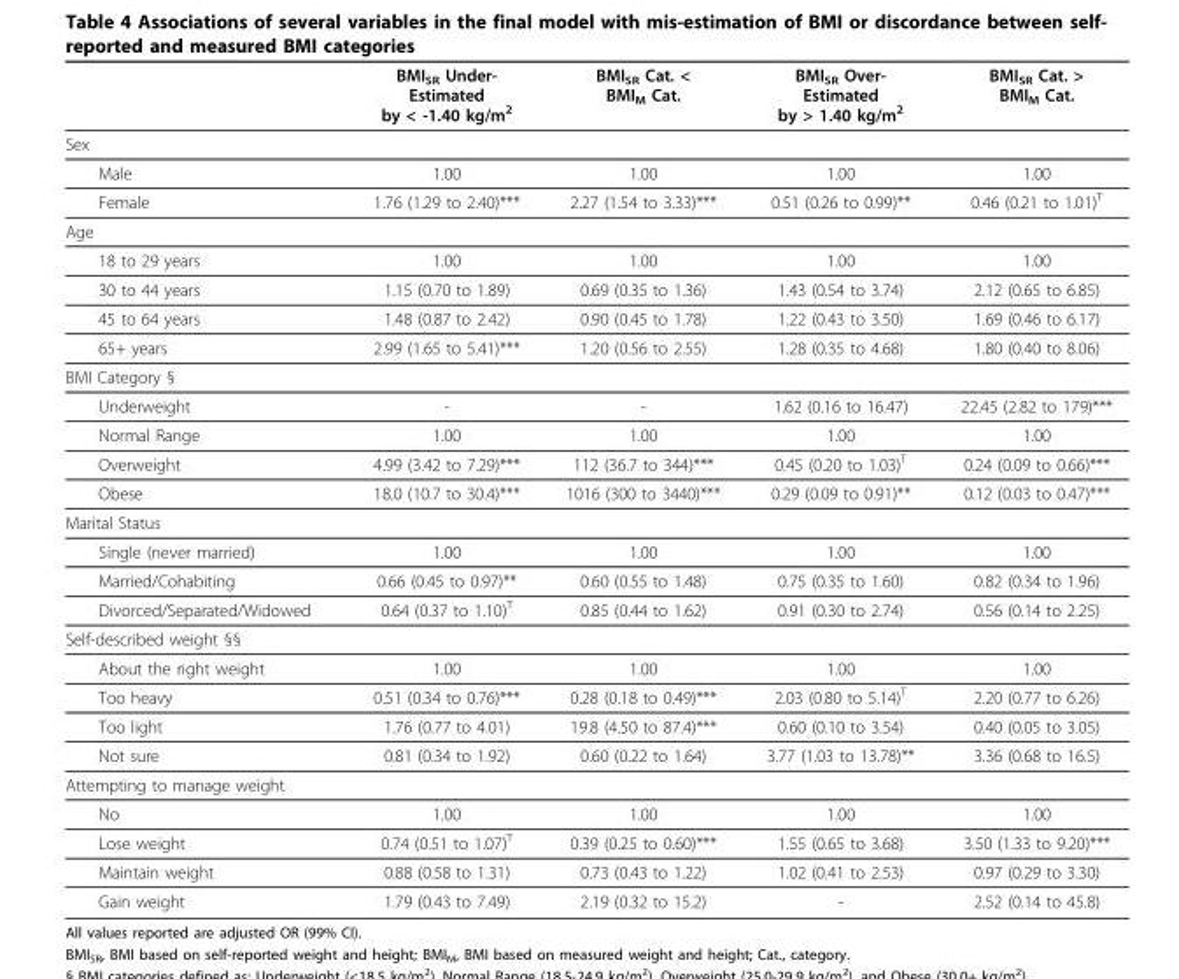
<table><thead><tr><td></td><td>BMISR Under- Estimated by &lt; -1.40 kg/m2</td><td>BMISR Cat. &lt; BMIM Cat.</td><td>BMISR Over- Estimated by &gt; 1.40 kg/m2</td><td>BMISR Cat. &gt; BMIM Cat.</td></tr></thead><tbody><tr><td colspan="5">Sex</td></tr><tr><td>Male</td><td>1.00</td><td>1.00</td><td>1.00</td><td>1.00</td></tr><tr><td>Female</td><td>1.76 (1.29 to 2.40)***</td><td>2.27 (1.54 to 3.33)***</td><td>0.51 (0.26 to 0.99)**</td><td>0.46 (0.21 to 1.01)T</td></tr><tr><td colspan="5">Age</td></tr><tr><td>18 to 29 years</td><td>1.00</td><td>1.00</td><td>1.00</td><td>1.00</td></tr><tr><td>30 to 44 years</td><td>1.15 (0.70 to 1.89)</td><td>0.69 (0.35 to 1.36)</td><td>1.43 (0.54 to 3.74)</td><td>2.12 (0.65 to 6.85)</td></tr><tr><td>45 to 64 years</td><td>1.48 (0.87 to 2.42)</td><td>0.90 (0.45 to 1.78)</td><td>1.22 (0.43 to 3.50)</td><td>1.69 (0.46 to 6.17)</td></tr><tr><td>65+ years</td><td>2.99 (1.65 to 5.41)***</td><td>1.20 (0.56 to 2.55)</td><td>1.28 (0.35 to 4.68)</td><td>1.80 (0.40 to 8.06)</td></tr><tr><td colspan="5">BMI Category §</td></tr><tr><td>Underweight</td><td>-</td><td>-</td><td>1.62 (0.16 to 16.47)</td><td>22.45 (2.82 to 179)***</td></tr><tr><td>Normal Range</td><td>1.00</td><td>1.00</td><td>1.00</td><td>1.00</td></tr><tr><td>Overweight</td><td>4.99 (3.42 to 7.29)***</td><td>112 (36.7 to 344)***</td><td>0.45 (0.20 to 1.03)T</td><td>0.24 (0.09 to 0.66)***</td></tr><tr><td>Obese</td><td>18.0 (10.7 to 30.4)***</td><td>1016 (300 to 3440)***</td><td>0.29 (0.09 to 0.91)**</td><td>0.12 (0.03 to 0.47)***</td></tr><tr><td colspan="5">Marital Status</td></tr><tr><td>Single (never married)</td><td>1.00</td><td>1.00</td><td>1.00</td><td>1.00</td></tr><tr><td>Married/Cohabiting</td><td>0.66 (0.45 to 0.97)**</td><td>0.60 (0.55 to 1.48)</td><td>0.75 (0.35 to 1.60)</td><td>0.82 (0.34 to 1.96)</td></tr><tr><td>Divorced/Separated/Widowed</td><td>0.64 (0.37 to 1.10)T</td><td>0.85 (0.44 to 1.62)</td><td>0.91 (0.30 to 2.74)</td><td>0.56 (0.14 to 2.25)</td></tr><tr><td colspan="5">Self-described weight §§</td></tr><tr><td>About the right weight</td><td>1.00</td><td>1.00</td><td>1.00</td><td>1.00</td></tr><tr><td>Too heavy</td><td>0.51 (0.34 to 0.76)***</td><td>0.28 (0.18 to 0.49)***</td><td>2.03 (0.80 to 5.14)T</td><td>2.20 (0.77 to 6.26)</td></tr><tr><td>Too light</td><td>1.76 (0.77 to 4.01)</td><td>19.8 (4.50 to 87.4)***</td><td>0.60 (0.10 to 3.54)</td><td>0.40 (0.05 to 3.05)</td></tr><tr><td>Not sure</td><td>0.81 (0.34 to 1.92)</td><td>0.60 (0.22 to 1.64)</td><td>3.77 (1.03 to 13.78)**</td><td>3.36 (0.68 to 16.5)</td></tr><tr><td colspan="5">Attempting to manage weight</td></tr><tr><td>No</td><td>1.00</td><td>1.00</td><td>1.00</td><td>1.00</td></tr><tr><td>Lose weight</td><td>0.74 (0.51 to 1.07)T</td><td>0.39 (0.25 to 0.60)***</td><td>1.55 (0.65 to 3.68)</td><td>3.50 (1.33 to 9.20)***</td></tr><tr><td>Maintain weight</td><td>0.88 (0.58 to 1.31)</td><td>0.73 (0.43 to 1.22)</td><td>1.02 (0.41 to 2.53)</td><td>0.97 (0.29 to 3.30)</td></tr><tr><td>Gain weight</td><td>1.79 (0.43 to 7.49)</td><td>2.19 (0.32 to 15.2)</td><td>-</td><td>2.52 (0.14 to 45.8)</td></tr></tbody></table>